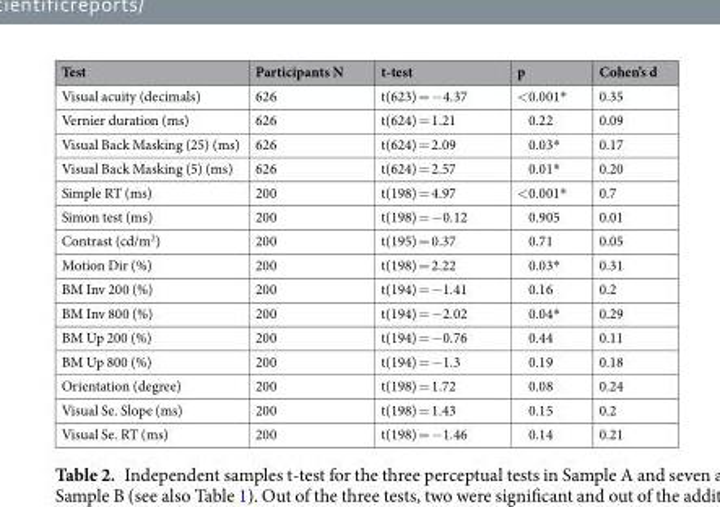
<table><thead><tr><td>Test</td><td>Participants N</td><td>t-test</td><td>p</td><td>Cohen’s d</td></tr></thead><tbody><tr><td>Visual acuity (decimals)</td><td>626</td><td>t(623) = −4.37</td><td>&lt;0.001*</td><td>0.35</td></tr><tr><td>Vernier duration (ms)</td><td>626</td><td>t(624) = 1.21</td><td>0.22</td><td>0.09</td></tr><tr><td>Visual Back Masking (25) (ms)</td><td>626</td><td>t(624) = 2.09</td><td>0.03*</td><td>0.17</td></tr><tr><td>Visual Back Masking (5) (ms)</td><td>626</td><td>t(624) = 2.57</td><td>0.01*</td><td>0.20</td></tr><tr><td>Simple RT (ms)</td><td>200</td><td>t(198) = 4.97</td><td>&lt;0.001*</td><td>0.7</td></tr><tr><td>Simon test (ms)</td><td>200</td><td>t(198) = −0.12</td><td>0.905</td><td>0.01</td></tr><tr><td>Contrast (cd/m<sup>2</sup>)</td><td>200</td><td>t(195) = 0.37</td><td>0.71</td><td>0.05</td></tr><tr><td>Motion Dir (%)</td><td>200</td><td>t(198) = 2.22</td><td>0.03*</td><td>0.31</td></tr><tr><td>BM Inv 200 (%)</td><td>200</td><td>t(194) = −1.41</td><td>0.16</td><td>0.2</td></tr><tr><td>BM Inv 800 (%)</td><td>200</td><td>t(194) = −2.02</td><td>0.04*</td><td>0.29</td></tr><tr><td>BM Up 200 (%)</td><td>200</td><td>t(194) = −0.76</td><td>0.44</td><td>0.11</td></tr><tr><td>BM Up 800 (%)</td><td>200</td><td>t(194) = −1.3</td><td>0.19</td><td>0.18</td></tr><tr><td>Orientation (degree)</td><td>200</td><td>t(198) = 1.72</td><td>0.08</td><td>0.24</td></tr><tr><td>Visual Se. Slope (ms)</td><td>200</td><td>t(198) = 1.43</td><td>0.15</td><td>0.2</td></tr><tr><td>Visual Se. RT (ms)</td><td>200</td><td>t(198) = −1.46</td><td>0.14</td><td>0.21</td></tr></tbody></table>